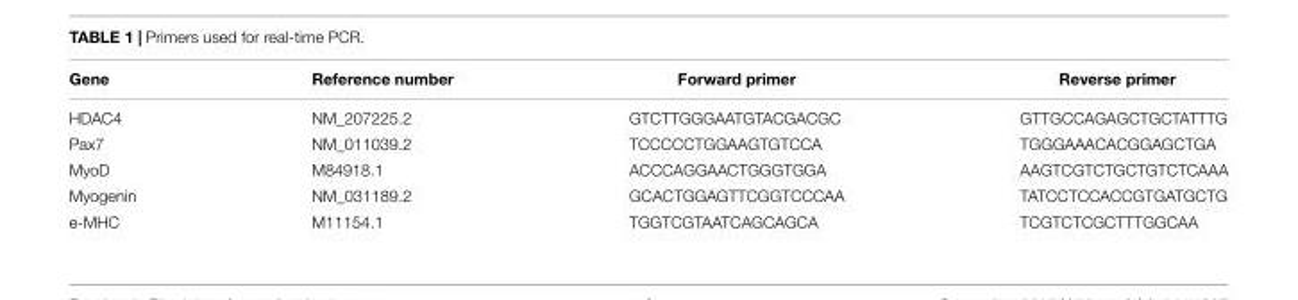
<table><thead><tr><td>Gene</td><td>Reference number</td><td>Forward primer</td><td>Reverse primer</td></tr></thead><tbody><tr><td>HDAC4</td><td>NM_207225.2</td><td>GTCTTGGGAATGTACGACGC</td><td>GTTGCCAGAGCTGCTATTTG</td></tr><tr><td>Pax7</td><td>NM_011039.2</td><td>TCCCCCTGGAAGTGTCCA</td><td>TGGGAAACACGGAGCTGA</td></tr><tr><td>MyoD</td><td>M84918.1</td><td>ACCCAGGAACTGGGTGGA</td><td>AAGTCGTCTGCTGTCTCAAA</td></tr><tr><td>Myogenin</td><td>NM_031189.2</td><td>GCACTGGAGTTCGGTCCCAA</td><td>TATCCTCCACCGTGATGCTG</td></tr><tr><td>e-MHC</td><td>M11154.1</td><td>TGGTCGTAATCAGCAGCA</td><td>TCGTCTCGCTTTGGCAA</td></tr></tbody></table>